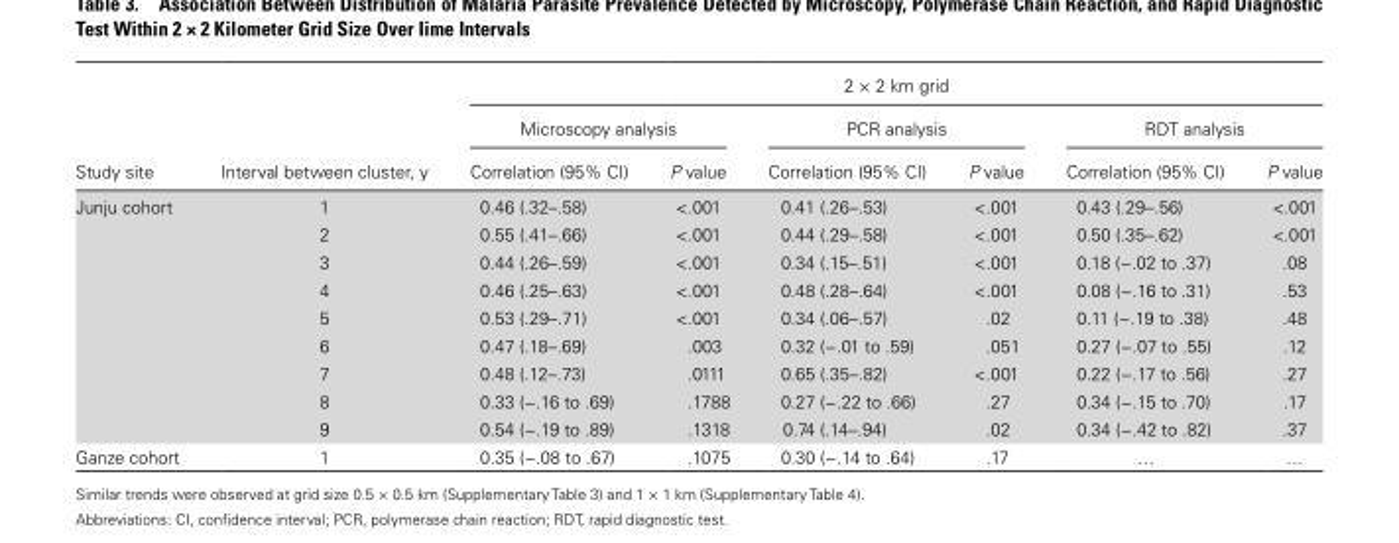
<table><thead><tr><td rowspan="3">Study site</td><td rowspan="3">Interval between cluster, y</td><td colspan="6">2 × 2 km grid</td></tr><tr><td colspan="2">Microscopy analysis</td><td colspan="2">PCR analysis</td><td colspan="2">RDT analysis</td></tr><tr><td>Correlation (95% CI)</td><td>P value</td><td>Correlation (95% CI)</td><td>P value</td><td>Correlation (95% CI)</td><td>P value</td></tr></thead><tbody><tr><td rowspan="9">Junju cohort</td><td>1</td><td>0.46 (.32–.58)</td><td>&lt;.001</td><td>0.41 (.26–.53)</td><td>&lt;.001</td><td>0.43 (.29–.56)</td><td>&lt;.001</td></tr><tr><td>2</td><td>0.55 (.41–.66)</td><td>&lt;.001</td><td>0.44 (.29–.58)</td><td>&lt;.001</td><td>0.50 (.35–.62)</td><td>&lt;.001</td></tr><tr><td>3</td><td>0.44 (.26–.59)</td><td>&lt;.001</td><td>0.34 (.15–.51)</td><td>&lt;.001</td><td>0.18 (−.02 to .37)</td><td>.08</td></tr><tr><td>4</td><td>0.46 (.25–.63)</td><td>&lt;.001</td><td>0.48 (.28–.64)</td><td>&lt;.001</td><td>0.08 (−.16 to .31)</td><td>.53</td></tr><tr><td>5</td><td>0.53 (.29–.71)</td><td>&lt;.001</td><td>0.34 (.06–.57)</td><td>.02</td><td>0.11 (−.19 to .38)</td><td>.48</td></tr><tr><td>6</td><td>0.47 (.18–.69)</td><td>.003</td><td>0.32 (−.01 to .59)</td><td>.051</td><td>0.27 (−.07 to .55)</td><td>.12</td></tr><tr><td>7</td><td>0.48 (.12–.73)</td><td>.0111</td><td>0.65 (.35–.82)</td><td>&lt;.001</td><td>0.22 (−.17 to .56)</td><td>.27</td></tr><tr><td>8</td><td>0.33 (−.16 to .69)</td><td>.1788</td><td>0.27 (−.22 to .66)</td><td>.27</td><td>0.34 (−.15 to .70)</td><td>.17</td></tr><tr><td>9</td><td>0.54 (−.19 to .89)</td><td>.1318</td><td>0.74 (.14–.94)</td><td>.02</td><td>0.34 (−.42 to .82)</td><td>.37</td></tr><tr><td>Ganze cohort</td><td>1</td><td>0.35 (−.08 to .67)</td><td>.1075</td><td>0.30 (−.14 to .64)</td><td>.17</td><td>…</td><td>…</td></tr></tbody></table>